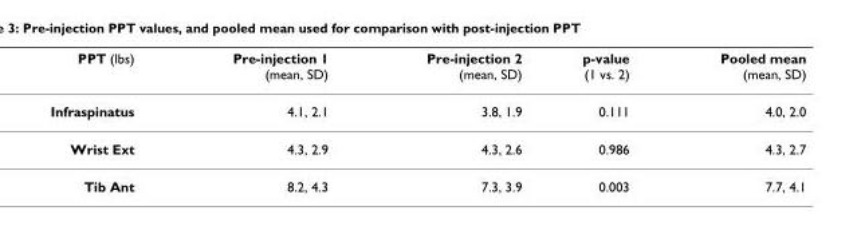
<table><thead><tr><td>PPT (lbs)</td><td>Pre-injection 1 (mean, SD)</td><td>Pre-injection 2 (mean, SD)</td><td>p-value (1 vs. 2)</td><td>Pooled mean (mean, SD)</td></tr></thead><tbody><tr><td>Infraspinatus</td><td>4.1, 2.1</td><td>3.8, 1.9</td><td>0.111</td><td>4.0, 2.0</td></tr><tr><td>Wrist Ext</td><td>4.3, 2.9</td><td>4.3, 2.6</td><td>0.986</td><td>4.3, 2.7</td></tr><tr><td>Tib Ant</td><td>8.2, 4.3</td><td>7.3, 3.9</td><td>0.003</td><td>7.7, 4.1</td></tr></tbody></table>